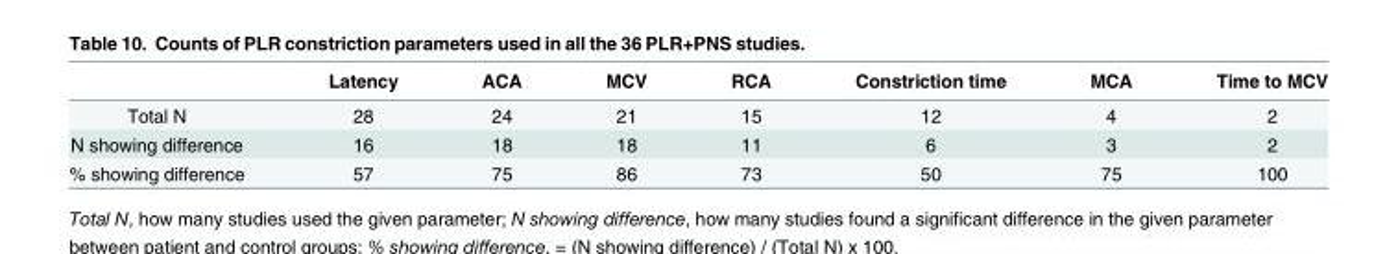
<table><thead><tr><td></td><td>Latency</td><td>ACA</td><td>MCV</td><td>RCA</td><td>Constriction time</td><td>MCA</td><td>Time to MCV</td></tr></thead><tbody><tr><td>Total N</td><td>28</td><td>24</td><td>21</td><td>15</td><td>12</td><td>4</td><td>2</td></tr><tr><td>N showing difference</td><td>16</td><td>18</td><td>18</td><td>11</td><td>6</td><td>3</td><td>2</td></tr><tr><td>% showing difference</td><td>57</td><td>75</td><td>86</td><td>73</td><td>50</td><td>75</td><td>100</td></tr></tbody></table>